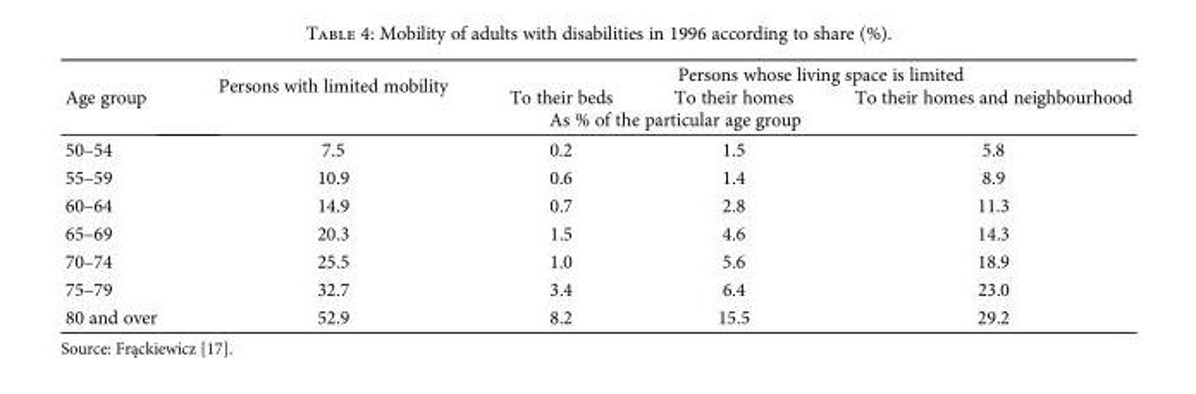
<table><thead><tr><td rowspan="3">Age group</td><td rowspan="2">Persons with limited mobility</td><td colspan="3">Persons whose living space is limited</td></tr><tr><td>To their beds</td><td>To their homes</td><td>To their homes and neighbourhood</td></tr><tr><td colspan="4">As % of the particular age group</td></tr></thead><tbody><tr><td>50–54</td><td>7.5</td><td>0.2</td><td>1.5</td><td>5.8</td></tr><tr><td>55–59</td><td>10.9</td><td>0.6</td><td>1.4</td><td>8.9</td></tr><tr><td>60–64</td><td>14.9</td><td>0.7</td><td>2.8</td><td>11.3</td></tr><tr><td>65–69</td><td>20.3</td><td>1.5</td><td>4.6</td><td>14.3</td></tr><tr><td>70–74</td><td>25.5</td><td>1.0</td><td>5.6</td><td>18.9</td></tr><tr><td>75–79</td><td>32.7</td><td>3.4</td><td>6.4</td><td>23.0</td></tr><tr><td>80 and over</td><td>52.9</td><td>8.2</td><td>15.5</td><td>29.2</td></tr></tbody></table>